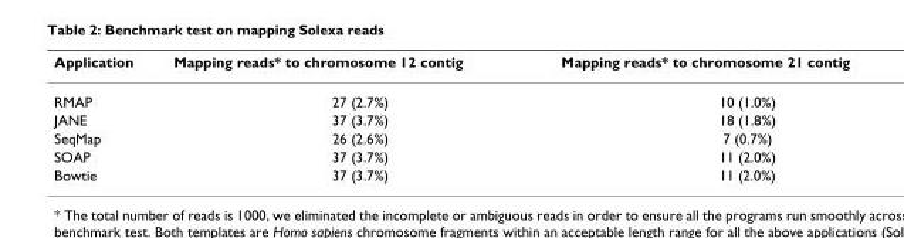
<table><thead><tr><td>Application</td><td>Mapping reads* to chromosome 12 contig</td><td>Mapping reads* to chromosome 21 contig</td></tr></thead><tbody><tr><td>RMAP</td><td>27 (2.7%)</td><td>10 (1.0%)</td></tr><tr><td>JANE</td><td>37 (3.7%)</td><td>18 (1.8%)</td></tr><tr><td>SeqMap</td><td>26 (2.6%)</td><td>7 (0.7%)</td></tr><tr><td>SOAP</td><td>37 (3.7%)</td><td>11 (2.0%)</td></tr><tr><td>Bowtie</td><td>37 (3.7%)</td><td>11 (2.0%)</td></tr></tbody></table>